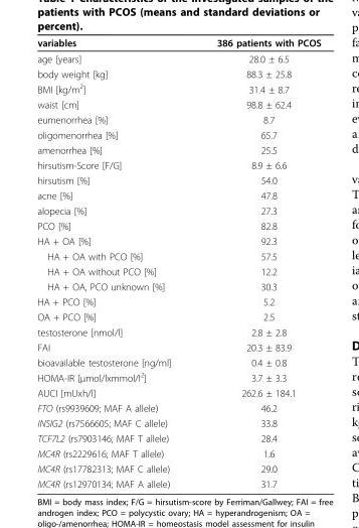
<table><thead><tr><td>variables</td><td>386 patients with PCOS</td></tr></thead><tbody><tr><td>age [years]</td><td>28.0 ± 6.5</td></tr><tr><td>body weight [kg]</td><td>88.3 ± 25.8</td></tr><tr><td>BMI [kg/m<sup>2</sup>]</td><td>31.4 ± 8.7</td></tr><tr><td>waist [cm]</td><td>98.8 ± 62.4</td></tr><tr><td>eumenorrhea [%]</td><td>8.7</td></tr><tr><td>oligomenorrhea [%]</td><td>65.7</td></tr><tr><td>amenorrhea [%]</td><td>25.5</td></tr><tr><td>hirsutism-Score [F/G]</td><td>8.9 ± 6.6</td></tr><tr><td>hirsutism [%]</td><td>54.0</td></tr><tr><td>acne [%]</td><td>47.8</td></tr><tr><td>alopecia [%]</td><td>27.3</td></tr><tr><td>PCO [%]</td><td>82.8</td></tr><tr><td>HA + OA [%]</td><td>92.3</td></tr><tr><td>HA + OA with PCO [%]</td><td>57.5</td></tr><tr><td>HA + OA without PCO [%]</td><td>12.2</td></tr><tr><td>HA + OA, PCO unknown [%]</td><td>30.3</td></tr><tr><td>HA + PCO [%]</td><td>5.2</td></tr><tr><td>OA + PCO [%]</td><td>2.5</td></tr><tr><td>testosterone [nmol/l]</td><td>2.8 ± 2.8</td></tr><tr><td>FAI</td><td>20.3 ± 83.9</td></tr><tr><td>bioavailable testosterone [ng/ml]</td><td>0.4 ± 0.8</td></tr><tr><td>HOMA-IR [μmol/lxmmol/l<sup>2</sup>]</td><td>3.7 ± 3.3</td></tr><tr><td>AUCI [mUxh/l]</td><td>262.6 ± 184.1</td></tr><tr><td>FTO (rs9939609; MAF A allele)</td><td>46.2</td></tr><tr><td>INSIG2 (rs7566605; MAF C allele)</td><td>33.8</td></tr><tr><td>TCF7L2 (rs7903146; MAF T allele)</td><td>28.4</td></tr><tr><td>MC4R (rs2229616; MAF T allele)</td><td>1.6</td></tr><tr><td>MC4R (rs17782313; MAF C allele)</td><td>29.0</td></tr><tr><td>MC4R (rs12970134; MAF A allele)</td><td>31.7</td></tr></tbody></table>